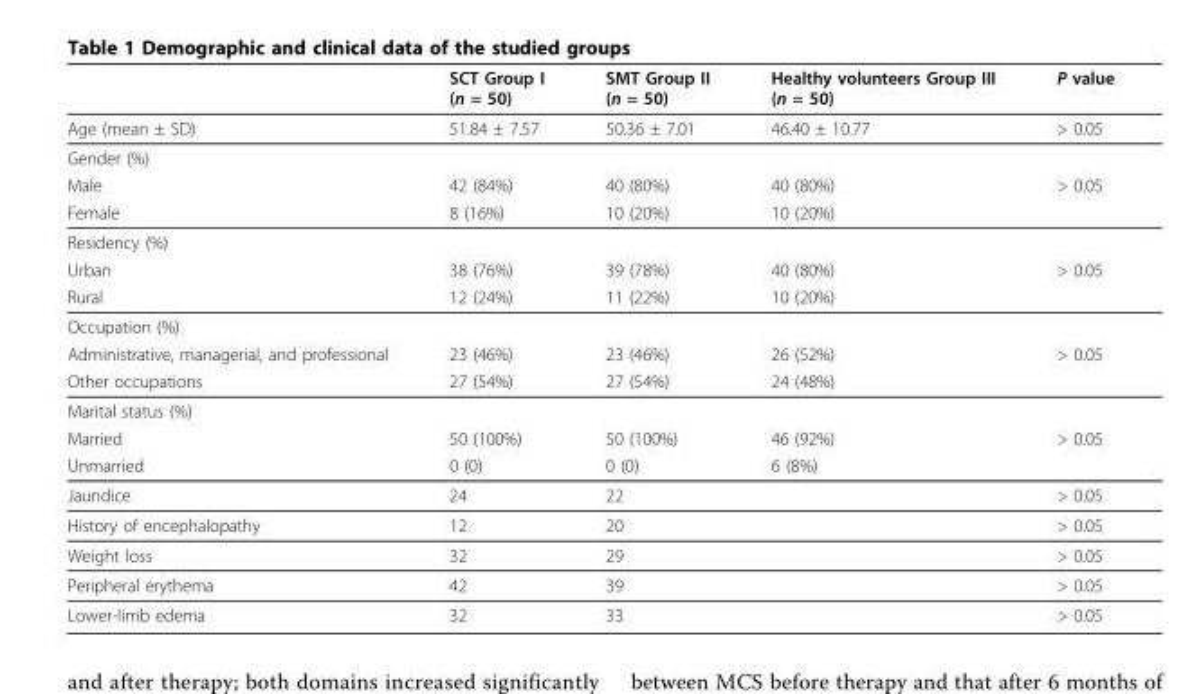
<table><thead><tr><td></td><td>SCT Group I (n = 50)</td><td>SMT Group II (n = 50)</td><td>Healthy volunteers Group III (n = 50)</td><td>P value</td></tr></thead><tbody><tr><td>Age (mean ± SD)</td><td>51.84 ± 7.57</td><td>50.36 ± 7.01</td><td>46.40 ± 10.77</td><td>&gt; 0.05</td></tr><tr><td colspan="5">Gender (%)</td></tr><tr><td>Male</td><td>42 (84%)</td><td>40 (80%)</td><td>40 (80%)</td><td>&gt; 0.05</td></tr><tr><td>Female</td><td>8 (16%)</td><td>10 (20%)</td><td>10 (20%)</td><td></td></tr><tr><td colspan="5">Residency (%)</td></tr><tr><td>Urban</td><td>38 (76%)</td><td>39 (78%)</td><td>40 (80%)</td><td>&gt; 0.05</td></tr><tr><td>Rural</td><td>12 (24%)</td><td>11 (22%)</td><td>10 (20%)</td><td></td></tr><tr><td colspan="5">Occupation (%)</td></tr><tr><td>Administrative, managerial, and professional</td><td>23 (46%)</td><td>23 (46%)</td><td>26 (52%)</td><td>&gt; 0.05</td></tr><tr><td>Other occupations</td><td>27 (54%)</td><td>27 (54%)</td><td>24 (48%)</td><td></td></tr><tr><td colspan="5">Marital status (%)</td></tr><tr><td>Married</td><td>50 (100%)</td><td>50 (100%)</td><td>46 (92%)</td><td>&gt; 0.05</td></tr><tr><td>Unmarried</td><td>0 (0)</td><td>0 (0)</td><td>6 (8%)</td><td></td></tr><tr><td>Jaundice</td><td>24</td><td>22</td><td></td><td>&gt; 0.05</td></tr><tr><td>History of encephalopathy</td><td>12</td><td>20</td><td></td><td>&gt; 0.05</td></tr><tr><td>Weight loss</td><td>32</td><td>29</td><td></td><td>&gt; 0.05</td></tr><tr><td>Peripheral erythema</td><td>42</td><td>39</td><td></td><td>&gt; 0.05</td></tr><tr><td>Lower-limb edema</td><td>32</td><td>33</td><td></td><td>&gt; 0.05</td></tr></tbody></table>